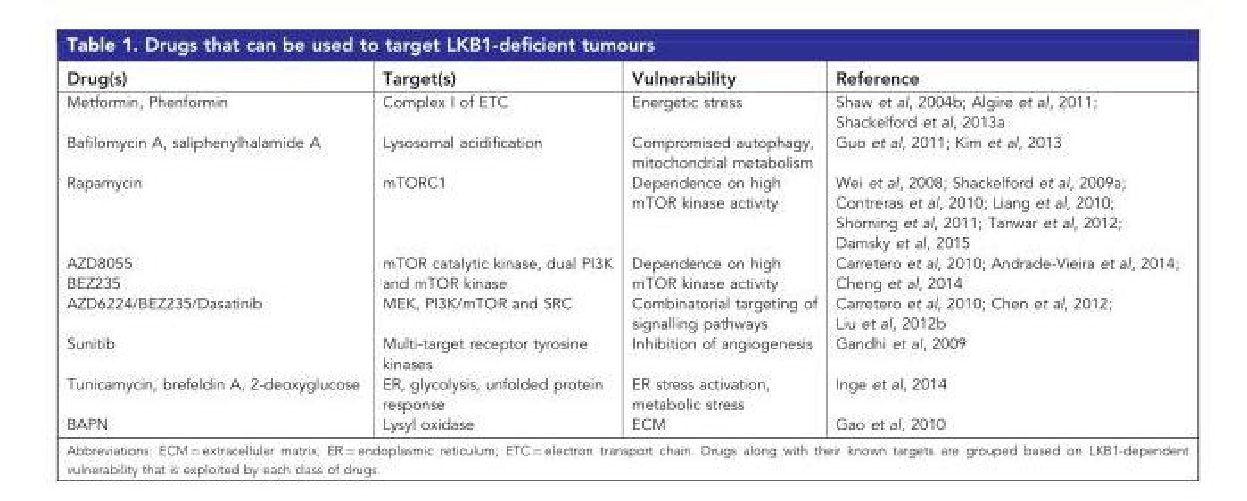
<table><thead><tr><td>Drug(s)</td><td>Target(s)</td><td>Vulnerability</td><td>Reference</td></tr></thead><tbody><tr><td>Metformin, Phenformin</td><td>Complex I of ETC</td><td>Energetic stress</td><td>Shaw et al, 2004b; Algire et al, 2011; Shackelford et al, 2013a</td></tr><tr><td>Bafilomycin A, saliphenylhalamide A</td><td>Lysosomal acidification</td><td>Compromised autophagy, mitochondrial metabolism</td><td>Guo et al, 2011; Kim et al, 2013</td></tr><tr><td>Rapamycin</td><td>mTORC1</td><td>Dependence on high mTOR kinase activity</td><td>Wei et al, 2008; Shackelford et al, 2009a; Contreras et al, 2010; Liang et al, 2010; Shorning et al, 2011; Tanwar et al, 2012; Damsky et al, 2015</td></tr><tr><td>AZD8055 BEZ235</td><td>mTOR catalytic kinase, dual PI3K and mTOR kinase</td><td>Dependence on high mTOR kinase activity</td><td>Carretero et al, 2010; Andrade-Vieira et al, 2014; Cheng et al, 2014</td></tr><tr><td>AZD6224/BEZ235/Dasatinib</td><td>MEK, PI3K/mTOR and SRC</td><td>Combinatorial targeting of signalling pathways</td><td>Carretero et al, 2010; Chen et al, 2012; Liu et al, 2012b</td></tr><tr><td>Sunitib</td><td>Multi-target receptor tyrosine kinases</td><td>Inhibition of angiogenesis</td><td>Gandhi et al, 2009</td></tr><tr><td>Tunicamycin, brefeldin A, 2-deoxyglucose</td><td>ER, glycolysis, unfolded protein response</td><td>ER stress activation, metabolic stress</td><td>Inge et al, 2014</td></tr><tr><td>BAPN</td><td>Lysyl oxidase</td><td>ECM</td><td>Gao et al, 2010</td></tr></tbody></table>